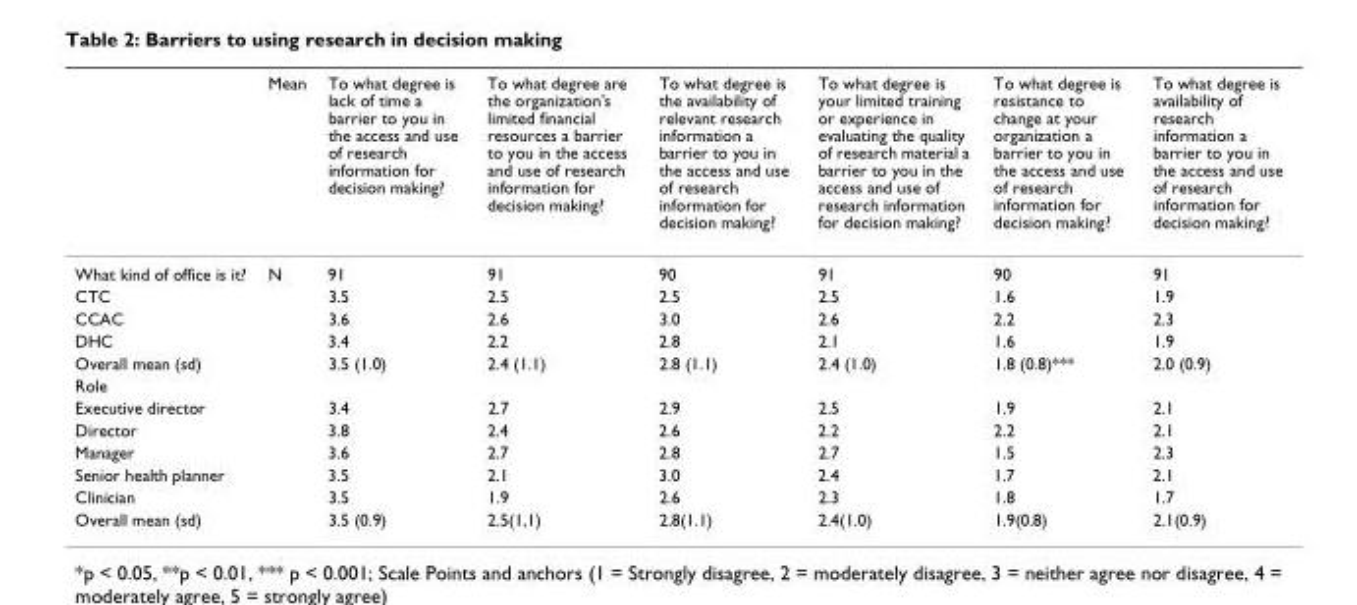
<table><thead><tr><td></td><td>Mean</td><td>To what degree is lack of time a barrier to you in the access and use of research information for decision making?</td><td>To what degree are the organization&#x27;s limited financial resources a barrier to you in the access and use of research information for decision making?</td><td>To what degree is the availability of relevant research information a barrier to you in the access and use of research information for decision making?</td><td>To what degree is your limited training or experience in evaluating the quality of research material a barrier to you in the access and use of research information for decision making?</td><td>To what degree is resistance to change at your organization a barrier to you in the access and use of research information for decision making?</td><td>To what degree is availability of research information a barrier to you in the access and use of research information for decision making?</td></tr></thead><tbody><tr><td>What kind of office is it?</td><td>N</td><td>91</td><td>91</td><td>90</td><td>91</td><td>90</td><td>91</td></tr><tr><td>CTC</td><td></td><td>3.5</td><td>2.5</td><td>2.5</td><td>2.5</td><td>1.6</td><td>1.9</td></tr><tr><td>CCAC</td><td></td><td>3.6</td><td>2.6</td><td>3.0</td><td>2.6</td><td>2.2</td><td>2.3</td></tr><tr><td>DHC</td><td></td><td>3.4</td><td>2.2</td><td>2.8</td><td>2.1</td><td>1.6</td><td>1.9</td></tr><tr><td>Overall mean (sd)</td><td></td><td>3.5 (1.0)</td><td>2.4 (1.1)</td><td>2.8 (1.1)</td><td>2.4 (1.0)</td><td>1.8 (0.8)***</td><td>2.0 (0.9)</td></tr><tr><td colspan="8">Role</td></tr><tr><td>Executive director</td><td></td><td>3.4</td><td>2.7</td><td>2.9</td><td>2.5</td><td>1.9</td><td>2.1</td></tr><tr><td>Director</td><td></td><td>3.8</td><td>2.4</td><td>2.6</td><td>2.2</td><td>2.2</td><td>2.1</td></tr><tr><td>Manager</td><td></td><td>3.6</td><td>2.7</td><td>2.8</td><td>2.7</td><td>1.5</td><td>2.3</td></tr><tr><td>Senior health planner</td><td></td><td>3.5</td><td>2.1</td><td>3.0</td><td>2.4</td><td>1.7</td><td>2.1</td></tr><tr><td>Clinician</td><td></td><td>3.5</td><td>1.9</td><td>2.6</td><td>2.3</td><td>1.8</td><td>1.7</td></tr><tr><td>Overall mean (sd)</td><td></td><td>3.5 (0.9)</td><td>2.5(1,1)</td><td>2.8(1.1)</td><td>2.4(1.0)</td><td>1.9(0.8)</td><td>2.1(0.9)</td></tr></tbody></table>